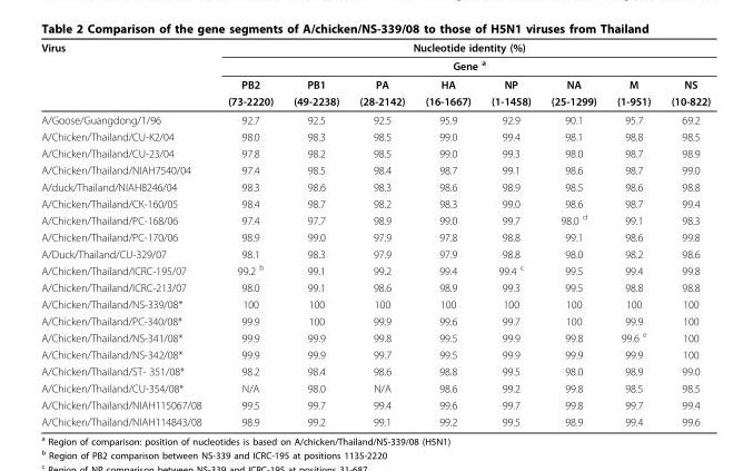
<table><thead><tr><td rowspan="4">Virus</td><td rowspan="2" colspan="8">Nucleotide identity (%) Gene <sup>a</sup></td></tr><tr></tr><tr><td rowspan="2">PB2 (73-2220)</td><td rowspan="2">PB1 (49-2238)</td><td rowspan="2">PA (28-2142)</td><td rowspan="2">HA (16-1667)</td><td rowspan="2">NP (1-1458)</td><td rowspan="2">NA (25-1299)</td><td rowspan="2">M (1-951)</td><td rowspan="2">NS (10-822)</td></tr><tr></tr></thead><tbody><tr><td>A/Goose/Guangdong/1/96</td><td>92.7</td><td>92.5</td><td>92.5</td><td>95.9</td><td>92.9</td><td>90.1</td><td>95.7</td><td>69.2</td></tr><tr><td>A/Chicken/Thailand/CU-K2/04</td><td>98.0</td><td>98.3</td><td>98.5</td><td>99.0</td><td>99.4</td><td>98.1</td><td>98.8</td><td>98.5</td></tr><tr><td>A/Chicken/Thailand/CU-23/04</td><td>97.8</td><td>98.2</td><td>98.5</td><td>99.0</td><td>99.3</td><td>98.0</td><td>98.7</td><td>98.9</td></tr><tr><td>A/Chicken/Thailand/NIAH7540/04</td><td>97.4</td><td>98.5</td><td>98.4</td><td>98.7</td><td>99.1</td><td>98.6</td><td>98.7</td><td>99.0</td></tr><tr><td>A/duck/Thailand/NIAH8246/04</td><td>98.3</td><td>98.6</td><td>98.3</td><td>98.6</td><td>98.9</td><td>98.5</td><td>98.6</td><td>98.8</td></tr><tr><td>A/Chicken/Thailand/CK-160/05</td><td>98.4</td><td>98.7</td><td>98.2</td><td>98.3</td><td>99.0</td><td>98.6</td><td>98.7</td><td>99.4</td></tr><tr><td>A/Chicken/Thailand/PC-168/06</td><td>97.4</td><td>97.7</td><td>98.9</td><td>99.0</td><td>99.7</td><td>98.0 <sup>d</sup></td><td>99.1</td><td>98.3</td></tr><tr><td>A/Chicken/Thailand/PC-170/06</td><td>98.9</td><td>99.0</td><td>97.9</td><td>97.8</td><td>98.8</td><td>99.1</td><td>98.6</td><td>99.8</td></tr><tr><td>A/Duck/Thailand/CU-329/07</td><td>98.1</td><td>98.3</td><td>97.9</td><td>97.9</td><td>98.8</td><td>98.0</td><td>98.2</td><td>98.6</td></tr><tr><td>A/Chicken/Thailand/ICRC-195/07</td><td>99.2 <sup>b</sup></td><td>99.1</td><td>99.2</td><td>99.4</td><td>99.4 <sup>c</sup></td><td>99.5</td><td>99.4</td><td>99.8</td></tr><tr><td>A/Chicken/Thailand/ICRC-213/07</td><td>98.0</td><td>99.1</td><td>98.6</td><td>98.9</td><td>99.3</td><td>99.5</td><td>98.8</td><td>98.8</td></tr><tr><td>A/Chicken/Thailand/NS-339/08*</td><td>100</td><td>100</td><td>100</td><td>100</td><td>100</td><td>100</td><td>100</td><td>100</td></tr><tr><td>A/Chicken/Thailand/PC-340/08*</td><td>99.9</td><td>100</td><td>99.9</td><td>99.6</td><td>99.7</td><td>100</td><td>99.9</td><td>100</td></tr><tr><td>A/Chicken/Thailand/NS-341/08*</td><td>99.9</td><td>99.9</td><td>99.8</td><td>99.5</td><td>99.9</td><td>99.8</td><td>99.6 <sup>e</sup></td><td>100</td></tr><tr><td>A/Chicken/Thailand/NS-342/08*</td><td>99.9</td><td>99.9</td><td>99.7</td><td>99.5</td><td>99.9</td><td>99.9</td><td>99.9</td><td>100</td></tr><tr><td>A/Chicken/Thailand/ST- 351/08*</td><td>98.2</td><td>98.4</td><td>98.6</td><td>98.8</td><td>99.5</td><td>98.0</td><td>98.9</td><td>99.0</td></tr><tr><td>A/Chicken/Thailand/CU-354/08*</td><td>N/A</td><td>98.0</td><td>N/A</td><td>98.6</td><td>99.2</td><td>99.8</td><td>98.5</td><td>98.5</td></tr><tr><td>A/Chicken/Thailand/NIAH115067/08</td><td>99.5</td><td>99.7</td><td>99.4</td><td>99.6</td><td>99.7</td><td>99.8</td><td>99.7</td><td>99.4</td></tr><tr><td>A/Chicken/Thailand/NIAH114843/08</td><td>98.9</td><td>99.2</td><td>99.1</td><td>99.2</td><td>99.5</td><td>98.9</td><td>99.4</td><td>99.6</td></tr></tbody></table>